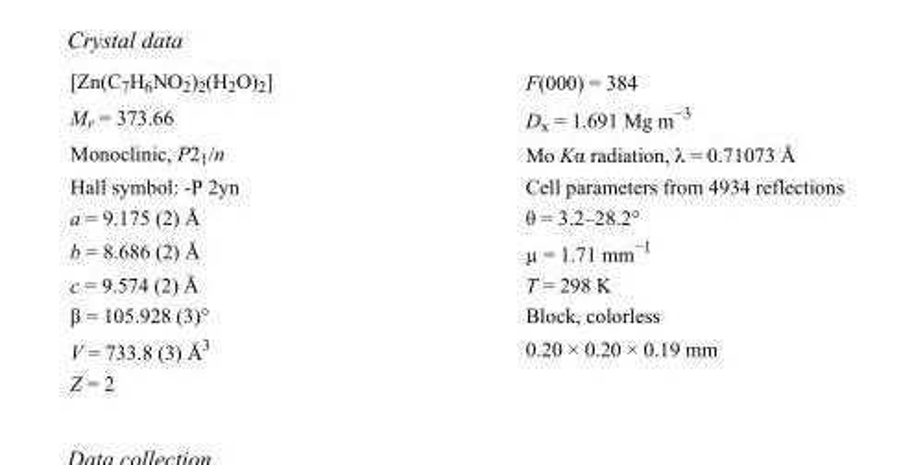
<table><tbody><tr><td>[Zn(C<sub>7</sub>H<sub>6</sub>NO<sub>2</sub>)<sub>2</sub>(H<sub>2</sub>O)<sub>2</sub>]</td><td>F(000) = 384</td></tr><tr><td>M<sub>r</sub> = 373.66</td><td>D<sub>x</sub> = 1.691 Mg m<sup>−3</sup></td></tr><tr><td>Monoclinic, P2<sub>1</sub>/n</td><td>Mo Kα radiation, λ = 0.71073 Å</td></tr><tr><td>Hall symbol: -P 2yn</td><td>Cell parameters from 4934 reflections</td></tr><tr><td>a = 9.175 (2) Å</td><td>θ = 3.2–28.2°</td></tr><tr><td>b = 8.686 (2) Å</td><td>µ = 1.71 mm<sup>−1</sup></td></tr><tr><td>c = 9.574 (2) Å</td><td>T = 298 K</td></tr><tr><td>β = 105.928 (3)°</td><td>Block, colorless</td></tr><tr><td>V = 733.8 (3) Å<sup>3</sup></td><td>0.20 × 0.20 × 0.19 mm</td></tr><tr><td>Z = 2</td><td></td></tr></tbody></table>